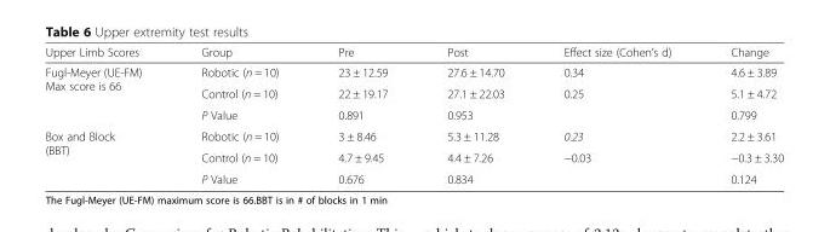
<table><thead><tr><td>Upper Limb Scores</td><td>Group</td><td>Pre</td><td>Post</td><td>Effect size (Cohen’s d)</td><td>Change</td></tr></thead><tbody><tr><td rowspan="3">Fugl-Meyer (UE-FM) Max score is 66</td><td>Robotic (n = 10)</td><td>23 ± 12.59</td><td>27.6 ± 14.70</td><td>0.34</td><td>4.6 ± 3.89</td></tr><tr><td>Control (n = 10)</td><td>22 ± 19.17</td><td>27.1 ± 22.03</td><td>0.25</td><td>5.1 ± 4.72</td></tr><tr><td>P Value</td><td>0.891</td><td>0.953</td><td></td><td>0.799</td></tr><tr><td rowspan="3">Box and Block (BBT)</td><td>Robotic (n = 10)</td><td>3 ± 8.46</td><td>5.3 ± 11.28</td><td>0.23</td><td>2.2 ± 3.61</td></tr><tr><td>Control (n = 10)</td><td>4.7 ± 9.45</td><td>4.4 ± 7.26</td><td>−0.03</td><td>−0.3 ± 3.30</td></tr><tr><td>P Value</td><td>0.676</td><td>0.834</td><td></td><td>0.124</td></tr></tbody></table>